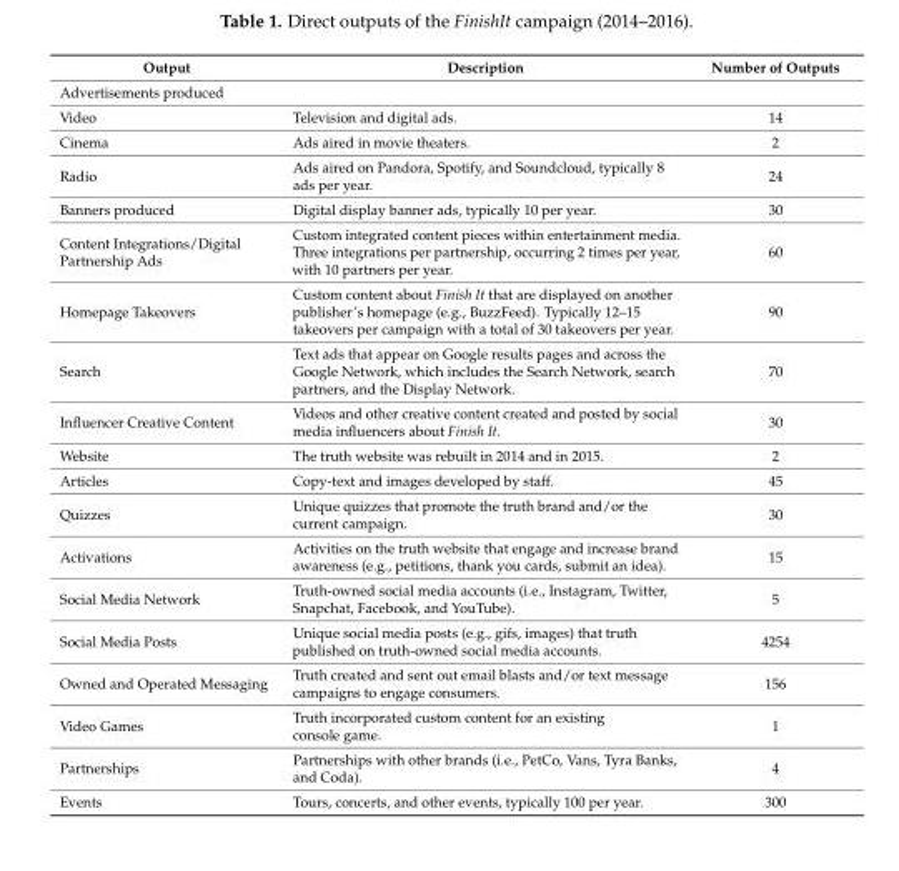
<table><thead><tr><td>Output</td><td>Description</td><td>Number of Outputs</td></tr></thead><tbody><tr><td colspan="3">Advertisements produced</td></tr><tr><td>Video</td><td>Television and digital ads.</td><td>14</td></tr><tr><td>Cinema</td><td>Ads aired in movie theaters.</td><td>2</td></tr><tr><td>Radio</td><td>Ads aired on Pandora, Spotify, and Soundcloud, typically 8 ads per year.</td><td>24</td></tr><tr><td>Banners produced</td><td>Digital display banner ads, typically 10 per year.</td><td>30</td></tr><tr><td>Content Integrations/Digital Partnership Ads</td><td>Custom integrated content pieces within entertainment media. Three integrations per partnership, occurring 2 times per year, with 10 partners per year.</td><td>60</td></tr><tr><td>Homepage Takeovers</td><td>Custom content about Finish It that are displayed on another publisher’s homepage (e.g., BuzzFeed). Typically 12–15 takeovers per campaign with a total of 30 takeovers per year.</td><td>90</td></tr><tr><td>Search</td><td>Text ads that appear on Google results pages and across the Google Network, which includes the Search Network, search partners, and the Display Network.</td><td>70</td></tr><tr><td>Influencer Creative Content</td><td>Videos and other creative content created and posted by social media influencers about Finish It.</td><td>30</td></tr><tr><td>Website</td><td>The truth website was rebuilt in 2014 and in 2015.</td><td>2</td></tr><tr><td>Articles</td><td>Copy-text and images developed by staff.</td><td>45</td></tr><tr><td>Quizzes</td><td>Unique quizzes that promote the truth brand and/or the current campaign.</td><td>30</td></tr><tr><td>Activations</td><td>Activities on the truth website that engage and increase brand awareness (e.g., petitions, thank you cards, submit an idea).</td><td>15</td></tr><tr><td>Social Media Network</td><td>Truth-owned social media accounts (i.e., Instagram, Twitter, Snapchat, Facebook, and YouTube).</td><td>5</td></tr><tr><td>Social Media Posts</td><td>Unique social media posts (e.g., gifs, images) that truth published on truth-owned social media accounts.</td><td>4254</td></tr><tr><td>Owned and Operated Messaging</td><td>Truth created and sent out email blasts and/or text message campaigns to engage consumers.</td><td>156</td></tr><tr><td>Video Games</td><td>Truth incorporated custom content for an existing console game.</td><td>1</td></tr><tr><td>Partnerships</td><td>Partnerships with other brands (i.e., PetCo, Vans, Tyra Banks, and Coda).</td><td>4</td></tr><tr><td>Events</td><td>Tours, concerts, and other events, typically 100 per year.</td><td>300</td></tr></tbody></table>